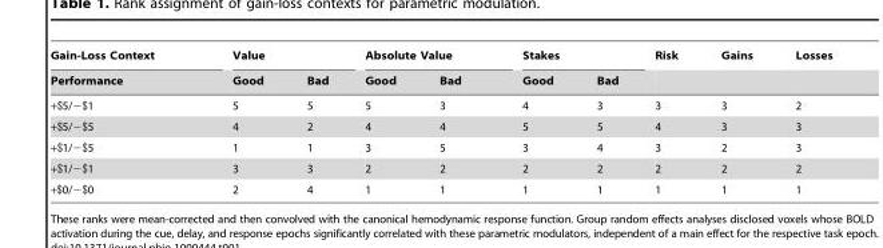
<table><thead><tr><td rowspan="2">Gain-Loss Context Performance</td><td colspan="2">Value</td><td colspan="2">Absolute Value</td><td colspan="2">Stakes</td><td rowspan="2">Risk</td><td rowspan="2">Gains</td><td rowspan="2">Losses</td></tr><tr><td>Good</td><td>Bad</td><td>Good</td><td>Bad</td><td>Good</td><td>Bad</td></tr></thead><tbody><tr><td>+$5/−$1</td><td>5</td><td>5</td><td>5</td><td>3</td><td>4</td><td>3</td><td>3</td><td>3</td><td>2</td></tr><tr><td>+$5/−$5</td><td>4</td><td>2</td><td>4</td><td>4</td><td>5</td><td>5</td><td>4</td><td>3</td><td>3</td></tr><tr><td>+$1/−$5</td><td>1</td><td>1</td><td>3</td><td>5</td><td>3</td><td>4</td><td>3</td><td>2</td><td>3</td></tr><tr><td>+$1/−$1</td><td>3</td><td>3</td><td>2</td><td>2</td><td>2</td><td>2</td><td>2</td><td>2</td><td>2</td></tr><tr><td>+$0/−$0</td><td>2</td><td>4</td><td>1</td><td>1</td><td>1</td><td>1</td><td>1</td><td>1</td><td>1</td></tr></tbody></table>